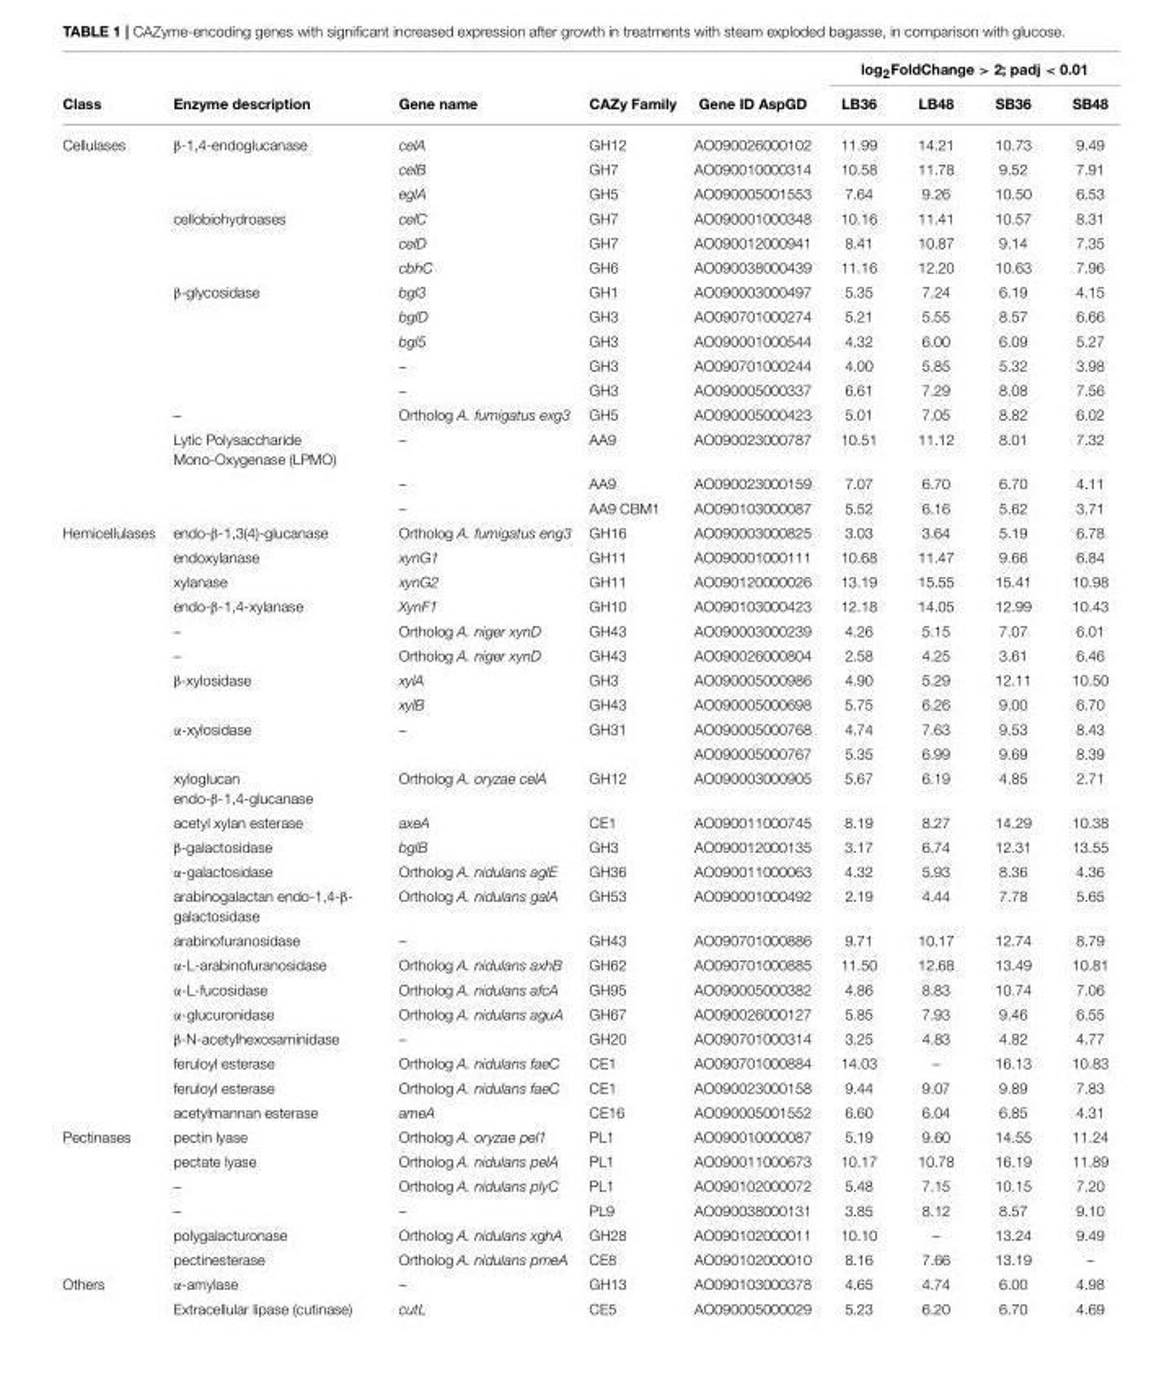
<table><thead><tr><td rowspan="2">Class</td><td rowspan="2">Enzyme description</td><td rowspan="2">Gene name</td><td rowspan="2">CAZy Family</td><td rowspan="2">Gene ID AspGD</td><td colspan="4">log<sub>2</sub>FoldChange &gt; 2; padj &lt; 0.01</td></tr><tr><td>LB36</td><td>LB48</td><td>SB36</td><td>SB48</td></tr></thead><tbody><tr><td rowspan="15">Cellulases</td><td>β-1,4-endoglucanase</td><td>celA</td><td>GH12</td><td>AO090026000102</td><td>11.99</td><td>14.21</td><td>10.73</td><td>9.49</td></tr><tr><td></td><td>celB</td><td>GH7</td><td>AO090010000314</td><td>10.58</td><td>11.78</td><td>9.52</td><td>7.91</td></tr><tr><td></td><td>eglA</td><td>GH5</td><td>AO090005001553</td><td>7.64</td><td>9.26</td><td>10.50</td><td>6.53</td></tr><tr><td>cellobiohydroases</td><td>celC</td><td>GH7</td><td>AO090001000348</td><td>10.16</td><td>11.41</td><td>10.57</td><td>8.31</td></tr><tr><td></td><td>celD</td><td>GH7</td><td>AO090012000941</td><td>8.41</td><td>10.87</td><td>9.14</td><td>7.35</td></tr><tr><td></td><td>cbhC</td><td>GH6</td><td>AO090038000439</td><td>11.16</td><td>12.20</td><td>10.63</td><td>7.96</td></tr><tr><td>β-glycosidase</td><td>bgl3</td><td>GH1</td><td>AO090003000497</td><td>5.35</td><td>7.24</td><td>6.19</td><td>4.15</td></tr><tr><td></td><td>bglD</td><td>GH3</td><td>AO090701000274</td><td>5.21</td><td>5.55</td><td>8.57</td><td>6.66</td></tr><tr><td></td><td>bgl5</td><td>GH3</td><td>AO090001000544</td><td>4.32</td><td>6.00</td><td>6.09</td><td>5.27</td></tr><tr><td></td><td>–</td><td>GH3</td><td>AO090701000244</td><td>4.00</td><td>5.85</td><td>5.32</td><td>3.98</td></tr><tr><td></td><td>–</td><td>GH3</td><td>AO090005000337</td><td>6.61</td><td>7.29</td><td>8.08</td><td>7.56</td></tr><tr><td>–</td><td>Ortholog A. fumigatus exg3</td><td>GH5</td><td>AO090005000423</td><td>5.01</td><td>7.05</td><td>8.82</td><td>6.02</td></tr><tr><td>Lytic Polysaccharide Mono-Oxygenase (LPMO)</td><td>–</td><td>AA9</td><td>AO090023000787</td><td>10.51</td><td>11.12</td><td>8.01</td><td>7.32</td></tr><tr><td></td><td>–</td><td>AA9</td><td>AO090023000159</td><td>7.07</td><td>6.70</td><td>6.70</td><td>4.11</td></tr><tr><td></td><td>–</td><td>AA9 CBM1</td><td>AO090103000087</td><td>5.52</td><td>6.16</td><td>5.62</td><td>3.71</td></tr><tr><td rowspan="23">Hemicellulases</td><td>endo-β-1,3(4)-glucanase</td><td>Ortholog A. fumigatus eng3</td><td>GH16</td><td>AO090003000825</td><td>3.03</td><td>3.64</td><td>5.19</td><td>6.78</td></tr><tr><td>endoxylanase</td><td>xynG1</td><td>GH11</td><td>AO090001000111</td><td>10.68</td><td>11.47</td><td>9.66</td><td>6.84</td></tr><tr><td>xylanase</td><td>xynG2</td><td>GH11</td><td>AO090120000026</td><td>13.19</td><td>15.55</td><td>15.41</td><td>10.98</td></tr><tr><td>endo-β-1,4-xylanase</td><td>XynF1</td><td>GH10</td><td>AO090103000423</td><td>12.18</td><td>14.05</td><td>12.99</td><td>10.43</td></tr><tr><td>–</td><td>Ortholog A. niger xynD</td><td>GH43</td><td>AO090003000239</td><td>4.26</td><td>5.15</td><td>7.07</td><td>6.01</td></tr><tr><td>–</td><td>Ortholog A. niger xynD</td><td>GH43</td><td>AO090026000804</td><td>2.58</td><td>4.25</td><td>3.61</td><td>6.46</td></tr><tr><td>β-xylosidase</td><td>xylA</td><td>GH3</td><td>AO090005000986</td><td>4.90</td><td>5.29</td><td>12.11</td><td>10.50</td></tr><tr><td></td><td>xylB</td><td>GH43</td><td>AO090005000698</td><td>5.75</td><td>6.26</td><td>9.00</td><td>6.70</td></tr><tr><td>α-xylosidase</td><td>–</td><td>GH31</td><td>AO090005000768</td><td>4.74</td><td>7.63</td><td>9.53</td><td>8.43</td></tr><tr><td></td><td></td><td></td><td>AO090005000767</td><td>5.35</td><td>6.99</td><td>9.69</td><td>8.39</td></tr><tr><td>xyloglucan endo-β-1,4-glucanase</td><td>Ortholog A. oryzae celA</td><td>GH12</td><td>AO090003000905</td><td>5.67</td><td>6.19</td><td>4.85</td><td>2.71</td></tr><tr><td>acetyl xylan esterase</td><td>axeA</td><td>CE1</td><td>AO090011000745</td><td>8.19</td><td>8.27</td><td>14.29</td><td>10.38</td></tr><tr><td>β-galactosidase</td><td>bglB</td><td>GH3</td><td>AO090012000135</td><td>3.17</td><td>6.74</td><td>12.31</td><td>13.55</td></tr><tr><td>α-galactosidase</td><td>Ortholog A. nidulans aglE</td><td>GH36</td><td>AO090011000063</td><td>4.32</td><td>5.93</td><td>8.36</td><td>4.36</td></tr><tr><td>arabinogalactan endo-1,4-β- galactosidase</td><td>Ortholog A. nidulans galA</td><td>GH53</td><td>AO090001000492</td><td>2.19</td><td>4.44</td><td>7.78</td><td>5.65</td></tr><tr><td>arabinofuranosidase</td><td>–</td><td>GH43</td><td>AO090701000886</td><td>9.71</td><td>10.17</td><td>12.74</td><td>8.79</td></tr><tr><td>α-L-arabinofuranosidase</td><td>Ortholog A. nidulans axhB</td><td>GH62</td><td>AO090701000885</td><td>11.50</td><td>12.68</td><td>13.49</td><td>10.81</td></tr><tr><td>α-L-fucosidase</td><td>Ortholog A. nidulans afcA</td><td>GH95</td><td>AO090005000382</td><td>4.86</td><td>8.83</td><td>10.74</td><td>7.06</td></tr><tr><td>α-glucuronidase</td><td>Ortholog A. nidulans aguA</td><td>GH67</td><td>AO090026000127</td><td>5.85</td><td>7.93</td><td>9.46</td><td>6.55</td></tr><tr><td>β-N-acetylhexosaminidase</td><td>–</td><td>GH20</td><td>AO090701000314</td><td>3.25</td><td>4.83</td><td>4.82</td><td>4.77</td></tr><tr><td>feruloyl esterase</td><td>Ortholog A. nidulans faeC</td><td>CE1</td><td>AO090701000884</td><td>14.03</td><td>–</td><td>16.13</td><td>10.83</td></tr><tr><td>feruloyl esterase</td><td>Ortholog A. nidulans faeC</td><td>CE1</td><td>AO090023000158</td><td>9.44</td><td>9.07</td><td>9.89</td><td>7.83</td></tr><tr><td>acetylmannan esterase</td><td>ameA</td><td>CE16</td><td>AO090005001552</td><td>6.60</td><td>6.04</td><td>6.85</td><td>4.31</td></tr><tr><td rowspan="6">Pectinases</td><td>pectin lyase</td><td>Ortholog A. oryzae pel1</td><td>PL1</td><td>AO090010000087</td><td>5.19</td><td>9.60</td><td>14.55</td><td>11.24</td></tr><tr><td>pectate lyase</td><td>Ortholog A. nidulans pelA</td><td>PL1</td><td>AO090011000673</td><td>10.17</td><td>10.78</td><td>16.19</td><td>11.89</td></tr><tr><td>–</td><td>Ortholog A. nidulans plyC</td><td>PL1</td><td>AO090102000072</td><td>5.48</td><td>7.15</td><td>10.15</td><td>7.20</td></tr><tr><td>–</td><td>–</td><td>PL9</td><td>AO090038000131</td><td>3.85</td><td>8.12</td><td>8.57</td><td>9.10</td></tr><tr><td>polygalacturonase</td><td>Ortholog A. nidulans xghA</td><td>GH28</td><td>AO090102000011</td><td>10.10</td><td>–</td><td>13.24</td><td>9.49</td></tr><tr><td>pectinesterase</td><td>Ortholog A. nidulans pmeA</td><td>CE8</td><td>AO090102000010</td><td>8.16</td><td>7.66</td><td>13.19</td><td>–</td></tr><tr><td rowspan="2">Others</td><td>α-amylase</td><td>–</td><td>GH13</td><td>AO090103000378</td><td>4.65</td><td>4.74</td><td>6.00</td><td>4.98</td></tr><tr><td>Extracellular lipase (cutinase)</td><td>cutL</td><td>CE5</td><td>AO090005000029</td><td>5.23</td><td>6.20</td><td>6.70</td><td>4.69</td></tr></tbody></table>